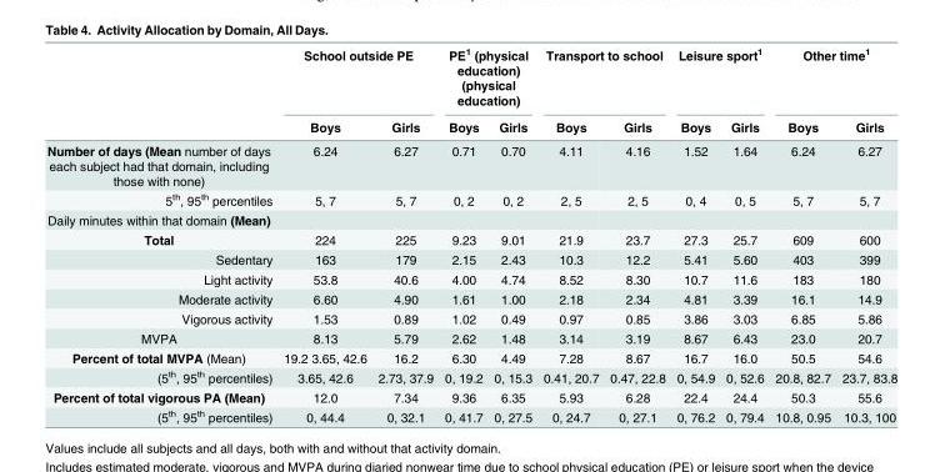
<table><thead><tr><td rowspan="2"></td><td colspan="2">School outside PE</td><td colspan="2">PE<sup>1</sup> (physical education) (physical education)</td><td colspan="2">Transport to school</td><td colspan="2">Leisure sport<sup>1</sup></td><td colspan="2">Other time<sup>1</sup></td></tr><tr><td>Boys</td><td>Girls</td><td>Boys</td><td>Girls</td><td>Boys</td><td>Girls</td><td>Boys</td><td>Girls</td><td>Boys</td><td>Girls</td></tr></thead><tbody><tr><td>Number of days (Mean number of days each subject had that domain, including those with none)</td><td>6.24</td><td>6.27</td><td>0.71</td><td>0.70</td><td>4.11</td><td>4.16</td><td>1.52</td><td>1.64</td><td>6.24</td><td>6.27</td></tr><tr><td>5<sup>th</sup>, 95<sup>th</sup> percentiles</td><td>5, 7</td><td>5, 7</td><td>0, 2</td><td>0, 2</td><td>2, 5</td><td>2, 5</td><td>0, 4</td><td>0, 5</td><td>5, 7</td><td>5, 7</td></tr><tr><td colspan="11">Daily minutes within that domain (Mean)</td></tr><tr><td>Total</td><td>224</td><td>225</td><td>9.23</td><td>9.01</td><td>21.9</td><td>23.7</td><td>27.3</td><td>25.7</td><td>609</td><td>600</td></tr><tr><td>Sedentary</td><td>163</td><td>179</td><td>2.15</td><td>2.43</td><td>10.3</td><td>12.2</td><td>5.41</td><td>5.60</td><td>403</td><td>399</td></tr><tr><td>Light activity</td><td>53.8</td><td>40.6</td><td>4.00</td><td>4.74</td><td>8.52</td><td>8.30</td><td>10.7</td><td>11.6</td><td>183</td><td>180</td></tr><tr><td>Moderate activity</td><td>6.60</td><td>4.90</td><td>1.61</td><td>1.00</td><td>2.18</td><td>2.34</td><td>4.81</td><td>3.39</td><td>16.1</td><td>14.9</td></tr><tr><td>Vigorous activity</td><td>1.53</td><td>0.89</td><td>1.02</td><td>0.49</td><td>0.97</td><td>0.85</td><td>3.86</td><td>3.03</td><td>6.85</td><td>5.86</td></tr><tr><td>MVPA</td><td>8.13</td><td>5.79</td><td>2.62</td><td>1.48</td><td>3.14</td><td>3.19</td><td>8.67</td><td>6.43</td><td>23.0</td><td>20.7</td></tr><tr><td>Percent of total MVPA (Mean)</td><td>19.2 3.65, 42.6</td><td>16.2</td><td>6.30</td><td>4.49</td><td>7.28</td><td>8.67</td><td>16.7</td><td>16.0</td><td>50.5</td><td>54.6</td></tr><tr><td>(5<sup>th</sup>, 95<sup>th</sup> percentiles)</td><td>3.65, 42.6</td><td>2.73, 37.9</td><td>0, 19.2</td><td>0, 15.3</td><td>0.41, 20.7</td><td>0.47, 22.8</td><td>0, 54.9</td><td>0, 52.6</td><td>20.8, 82.7</td><td>23.7, 83.8</td></tr><tr><td>Percent of total vigorous PA (Mean)</td><td>12.0</td><td>7.34</td><td>9.36</td><td>6.35</td><td>5.93</td><td>6.28</td><td>22.4</td><td>24.4</td><td>50.3</td><td>55.6</td></tr><tr><td>(5<sup>th</sup>, 95<sup>th</sup> percentiles)</td><td>0, 44.4</td><td>0, 32.1</td><td>0, 41.7</td><td>0, 27.5</td><td>0, 24.7</td><td>0, 27.1</td><td>0, 76.2</td><td>0, 79.4</td><td>10.8, 0.95</td><td>10.3, 100</td></tr></tbody></table>